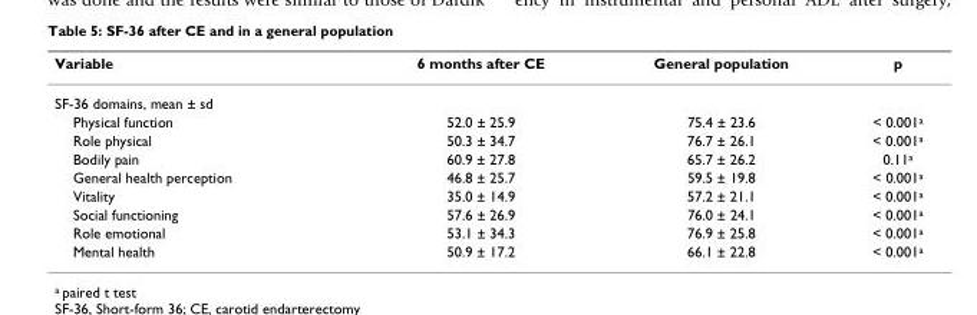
<table><thead><tr><td>Variable</td><td>6 months after CE</td><td>General population</td><td>p</td></tr></thead><tbody><tr><td colspan="4">SF-36 domains, mean ± sd</td></tr><tr><td>Physical function</td><td>52.0 ± 25.9</td><td>75.4 ± 23.6</td><td>&lt; 0.001<sup>a</sup></td></tr><tr><td>Role physical</td><td>50.3 ± 34.7</td><td>76.7 ± 26.1</td><td>&lt; 0.001<sup>a</sup></td></tr><tr><td>Bodily pain</td><td>60.9 ± 27.8</td><td>65.7 ± 26.2</td><td>0.11<sup>a</sup></td></tr><tr><td>General health perception</td><td>46.8 ± 25.7</td><td>59.5 ± 19.8</td><td>&lt; 0.001<sup>a</sup></td></tr><tr><td>Vitality</td><td>35.0 ± 14.9</td><td>57.2 ± 21.1</td><td>&lt; 0.001<sup>a</sup></td></tr><tr><td>Social functioning</td><td>57.6 ± 26.9</td><td>76.0 ± 24.1</td><td>&lt; 0.001<sup>a</sup></td></tr><tr><td>Role emotional</td><td>53.1 ± 34.3</td><td>76.9 ± 25.8</td><td>&lt; 0.001<sup>a</sup></td></tr><tr><td>Mental health</td><td>50.9 ± 17.2</td><td>66.1 ± 22.8</td><td>&lt; 0.001<sup>a</sup></td></tr></tbody></table>